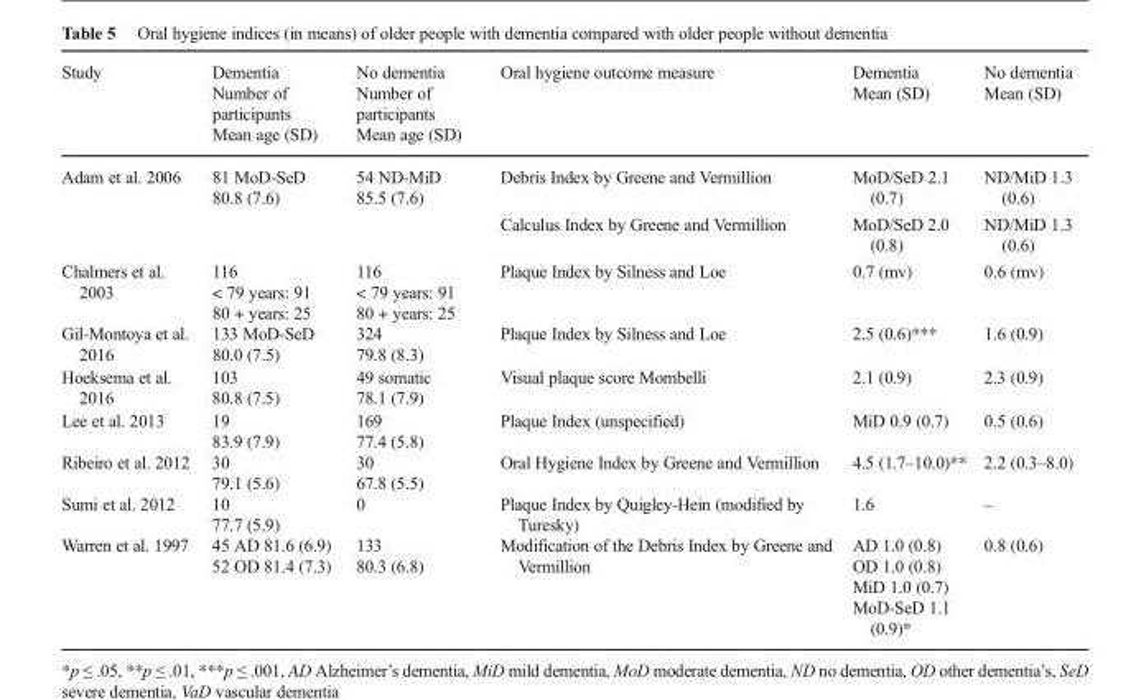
<table><thead><tr><td>Study</td><td>Dementia Number of participants Mean age (SD)</td><td>No dementia Number of participants Mean age (SD)</td><td>Oral hygiene outcome measure</td><td>Dementia Mean (SD)</td><td>No dementia Mean (SD)</td></tr></thead><tbody><tr><td rowspan="2">Adam et al. 2006</td><td>81 MoD-SeD 80.8 (7.6)</td><td rowspan="2">54 ND-MiD 85.5 (7.6)</td><td>Debris Index by Greene and Vermillion</td><td>MoD/SeD 2.1 (0.7)</td><td>ND/MiD 1.3 (0.6)</td></tr><tr><td></td><td>Calculus Index by Greene and Vermillion</td><td>MoD/SeD 2.0 (0.8)</td><td>ND/MiD 1.3 (0.6)</td></tr><tr><td>Chalmers et al. 2003</td><td>116 &lt; 79 years: 91 80 + years: 25</td><td>116 &lt; 79 years: 91 80 + years: 25</td><td>Plaque Index by Silness and Loe</td><td>0.7 (mv)</td><td>0.6 (mv)</td></tr><tr><td>Gil-Montoya et al. 2016</td><td>133 MoD-SeD 80.0 (7.5)</td><td>324 79.8 (8.3)</td><td>Plaque Index by Silness and Loe</td><td>2.5 (0.6)***</td><td>1.6 (0.9)</td></tr><tr><td>Hoeksema et al. 2016</td><td>103 80.8 (7.5)</td><td>49 somatic 78.1 (7.9)</td><td>Visual plaque score Mombelli</td><td>2.1 (0.9)</td><td>2.3 (0.9)</td></tr><tr><td>Lee et al. 2013</td><td>19 83.9 (7.9)</td><td>169 77.4 (5.8)</td><td>Plaque Index (unspecified)</td><td>MiD 0.9 (0.7)</td><td>0.5 (0.6)</td></tr><tr><td>Ribeiro et al. 2012</td><td>30 79.1 (5.6)</td><td>30 67.8 (5.5)</td><td>Oral Hygiene Index by Greene and Vermillion</td><td>4.5 (1.7–10.0)**</td><td>2.2 (0.3–8.0)</td></tr><tr><td>Sumi et al. 2012</td><td>10 77.7 (5.9)</td><td>0</td><td>Plaque Index by Quigley-Hein (modified by Turesky)</td><td>1.6</td><td>–</td></tr><tr><td>Warren et al. 1997</td><td>45 AD 81.6 (6.9) 52 OD 81.4 (7.3)</td><td>133 80.3 (6.8)</td><td>Modification of the Debris Index by Greene and Vermillion</td><td>AD 1.0 (0.8) OD 1.0 (0.8) MiD 1.0 (0.7) MoD-SeD 1.1 (0.9)*</td><td>0.8 (0.6)</td></tr></tbody></table>